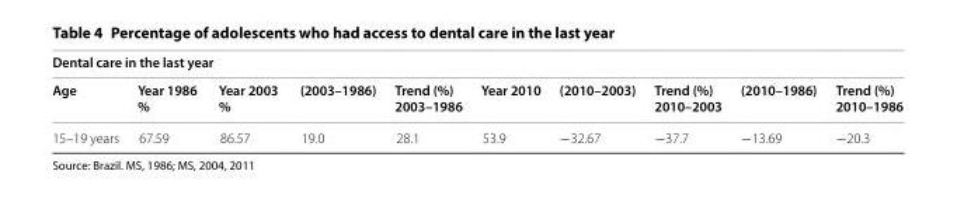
<table><thead><tr><td colspan="10">Dental care in the last year</td></tr><tr><td>Age</td><td>Year 1986 %</td><td>Year 2003 %</td><td>(2003–1986)</td><td>Trend (%) 2003–1986</td><td>Year 2010</td><td>(2010–2003)</td><td>Trend (%) 2010–2003</td><td>(2010–1986)</td><td>Trend (%) 2010–1986</td></tr></thead><tbody><tr><td>15–19 years</td><td>67.59</td><td>86.57</td><td>19.0</td><td>28.1</td><td>53.9</td><td>−32.67</td><td>−37.7</td><td>−13.69</td><td>−20.3</td></tr></tbody></table>